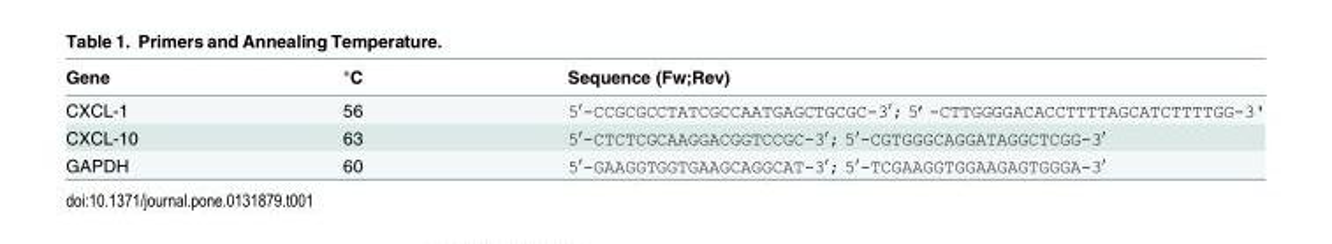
<table><thead><tr><td>Gene</td><td>°C</td><td>Sequence (Fw;Rev)</td></tr></thead><tbody><tr><td>CXCL-1</td><td>56</td><td>5′-CCGCGCCTATCGCCAATGAGCTGCGC-3′; 5’-CTTGGGGACACCTTTTAGCATCTTTTGG-3&#x27;</td></tr><tr><td>CXCL-10</td><td>63</td><td>5′-CTCTCGCAAGGACGGTCCGC-3′; 5′-CGTGGGCAGGATAGGCTCGG-3′</td></tr><tr><td>GAPDH</td><td>60</td><td>5′-GAAGGTGGTGAAGCAGGCAT-3′; 5′-TCGAAGGTGGAAGAGTGGGA-3′</td></tr></tbody></table>